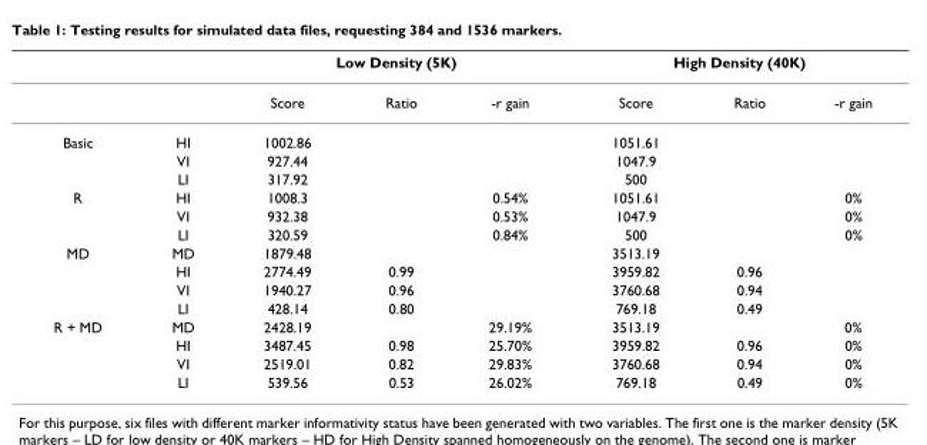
<table><thead><tr><td rowspan="2"></td><td rowspan="2"></td><td colspan="3">Low Density (5K)</td><td colspan="3">High Density (40K)</td></tr><tr><td>Score</td><td>Ratio</td><td>-r gain</td><td>Score</td><td>Ratio</td><td>-r gain</td></tr></thead><tbody><tr><td rowspan="3">Basic</td><td>HI</td><td>1002.86</td><td></td><td></td><td>1051.61</td><td></td><td></td></tr><tr><td>VI</td><td>927.44</td><td></td><td></td><td>1047.9</td><td></td><td></td></tr><tr><td>LI</td><td>317.92</td><td></td><td></td><td>500</td><td></td><td></td></tr><tr><td rowspan="3">R</td><td>HI</td><td>1008.3</td><td></td><td>0.54%</td><td>1051.61</td><td></td><td>0%</td></tr><tr><td>VI</td><td>932.38</td><td></td><td>0.53%</td><td>1047.9</td><td></td><td>0%</td></tr><tr><td>LI</td><td>320.59</td><td></td><td>0.84%</td><td>500</td><td></td><td>0%</td></tr><tr><td rowspan="4">MD</td><td>MD</td><td>1879.48</td><td></td><td></td><td>3513.19</td><td></td><td></td></tr><tr><td>HI</td><td>2774.49</td><td>0.99</td><td></td><td>3959.82</td><td>0.96</td><td></td></tr><tr><td>VI</td><td>1940.27</td><td>0.96</td><td></td><td>3760.68</td><td>0.94</td><td></td></tr><tr><td>LI</td><td>428.14</td><td>0.80</td><td></td><td>769.18</td><td>0.49</td><td></td></tr><tr><td rowspan="4">R + MD</td><td>MD</td><td>2428.19</td><td></td><td>29.19%</td><td>3513.19</td><td></td><td>0%</td></tr><tr><td>HI</td><td>3487.45</td><td>0.98</td><td>25.70%</td><td>3959.82</td><td>0.96</td><td>0%</td></tr><tr><td>VI</td><td>2519.01</td><td>0.82</td><td>29.83%</td><td>3760.68</td><td>0.94</td><td>0%</td></tr><tr><td>LI</td><td>539.56</td><td>0.53</td><td>26.02%</td><td>769.18</td><td>0.49</td><td>0%</td></tr></tbody></table>